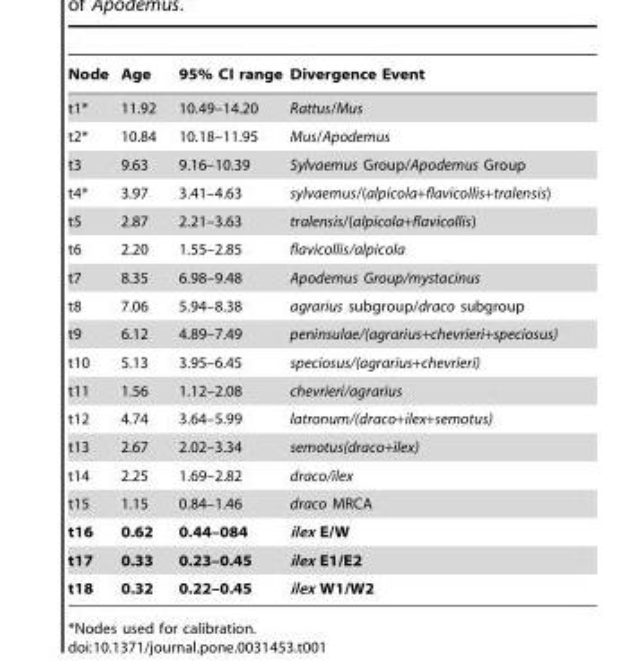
<table><thead><tr><td>Node</td><td>Age</td><td>95% CI range</td><td>Divergence Event</td></tr></thead><tbody><tr><td>t1*</td><td>11.92</td><td>10.49–14.20</td><td>Rattus/Mus</td></tr><tr><td>t2*</td><td>10.84</td><td>10.18–11.95</td><td>Mus/Apodemus</td></tr><tr><td>t3</td><td>9.63</td><td>9.16–10.39</td><td>Sylvaemus Group/Apodemus Group</td></tr><tr><td>t4*</td><td>3.97</td><td>3.41–4.63</td><td>sylvaemus/(alpicola+flavicollis+tralensis)</td></tr><tr><td>t5</td><td>2.87</td><td>2.21–3.63</td><td>tralensis/(alpicola+flavicollis)</td></tr><tr><td>t6</td><td>2.20</td><td>1.55–2.85</td><td>flavicollis/alpicola</td></tr><tr><td>t7</td><td>8.35</td><td>6.98–9.48</td><td>Apodemus Group/mystacinus</td></tr><tr><td>t8</td><td>7.06</td><td>5.94–8.38</td><td>agrarius subgroup/draco subgroup</td></tr><tr><td>t9</td><td>6.12</td><td>4.89–7.49</td><td>peninsulae/(agrarius+chevrieri+speciosus)</td></tr><tr><td>t10</td><td>5.13</td><td>3.95–6.45</td><td>speciosus/(agrarius+chevrieri)</td></tr><tr><td>t11</td><td>1.56</td><td>1.12–2.08</td><td>chevrieri/agrarius</td></tr><tr><td>t12</td><td>4.74</td><td>3.64–5.99</td><td>latronum/(draco+ilex+semotus)</td></tr><tr><td>t13</td><td>2.67</td><td>2.02–3.34</td><td>semotus(draco+ilex)</td></tr><tr><td>t14</td><td>2.25</td><td>1.69–2.82</td><td>draco/ilex</td></tr><tr><td>t15</td><td>1.15</td><td>0.84–1.46</td><td>draco MRCA</td></tr><tr><td>t16</td><td>0.62</td><td>0.44–084</td><td>ilex E/W</td></tr><tr><td>t17</td><td>0.33</td><td>0.23–0.45</td><td>ilex E1/E2</td></tr><tr><td>t18</td><td>0.32</td><td>0.22–0.45</td><td>ilex W1/W2</td></tr></tbody></table>